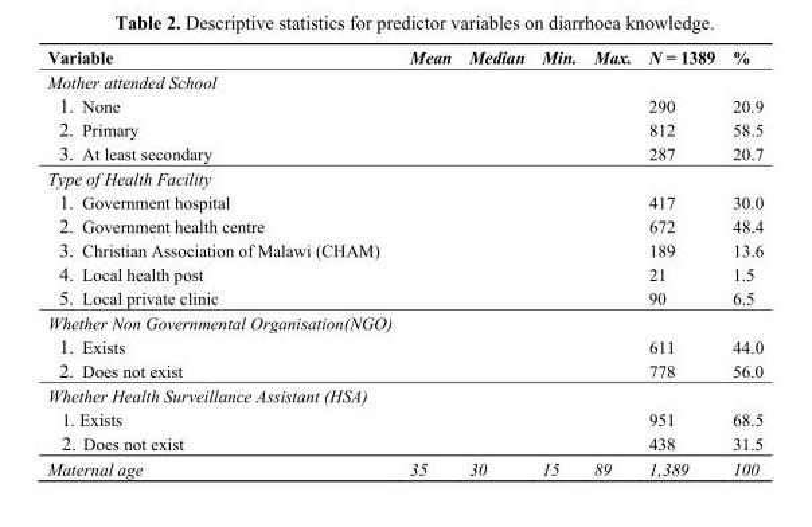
<table><thead><tr><td>Variable</td><td>Mean</td><td>Median</td><td>Min.</td><td>Max.</td><td>N = 1389</td><td>%</td></tr></thead><tbody><tr><td colspan="7">Mother attended School</td></tr><tr><td>1. None</td><td></td><td></td><td></td><td></td><td>290</td><td>20.9</td></tr><tr><td>2. Primary</td><td></td><td></td><td></td><td></td><td>812</td><td>58.5</td></tr><tr><td>3. At least secondary</td><td></td><td></td><td></td><td></td><td>287</td><td>20.7</td></tr><tr><td colspan="7">Type of Health Facility</td></tr><tr><td>1. Government hospital</td><td></td><td></td><td></td><td></td><td>417</td><td>30.0</td></tr><tr><td>2. Government health centre</td><td></td><td></td><td></td><td></td><td>672</td><td>48.4</td></tr><tr><td>3. Christian Association of Malawi (CHAM)</td><td></td><td></td><td></td><td></td><td>189</td><td>13.6</td></tr><tr><td>4. Local health post</td><td></td><td></td><td></td><td></td><td>21</td><td>1.5</td></tr><tr><td>5. Local private clinic</td><td></td><td></td><td></td><td></td><td>90</td><td>6.5</td></tr><tr><td colspan="7">Whether Non Governmental Organisation(NGO)</td></tr><tr><td>1. Exists</td><td></td><td></td><td></td><td></td><td>611</td><td>44.0</td></tr><tr><td>2. Does not exist</td><td></td><td></td><td></td><td></td><td>778</td><td>56.0</td></tr><tr><td colspan="7">Whether Health Surveillance Assistant (HSA)</td></tr><tr><td>1. Exists</td><td></td><td></td><td></td><td></td><td>951</td><td>68.5</td></tr><tr><td>2. Does not exist</td><td></td><td></td><td></td><td></td><td>438</td><td>31.5</td></tr><tr><td>Maternal age</td><td>35</td><td>30</td><td>15</td><td>89</td><td>1,389</td><td>100</td></tr></tbody></table>